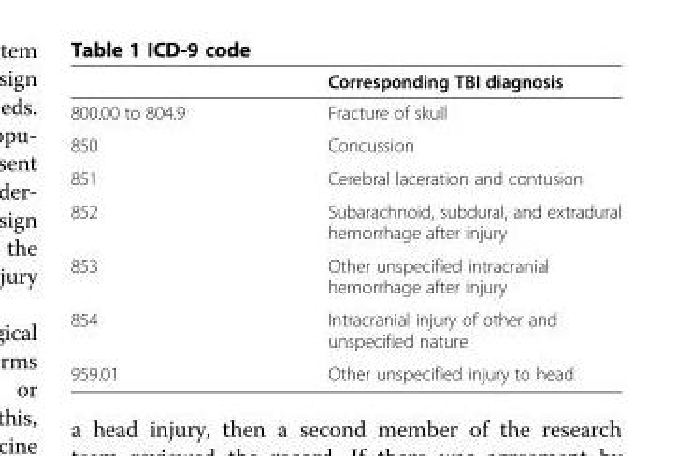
<table><thead><tr><td></td><td>Corresponding TBI diagnosis</td></tr></thead><tbody><tr><td>800.00 to 804.9</td><td>Fracture of skull</td></tr><tr><td>850</td><td>Concussion</td></tr><tr><td>851</td><td>Cerebral laceration and contusion</td></tr><tr><td>852</td><td>Subarachnoid, subdural, and extradural hemorrhage after injury</td></tr><tr><td>853</td><td>Other unspecified intracranial hemorrhage after injury</td></tr><tr><td>854</td><td>Intracranial injury of other and unspecified nature</td></tr><tr><td>959.01</td><td>Other unspecified injury to head</td></tr></tbody></table>